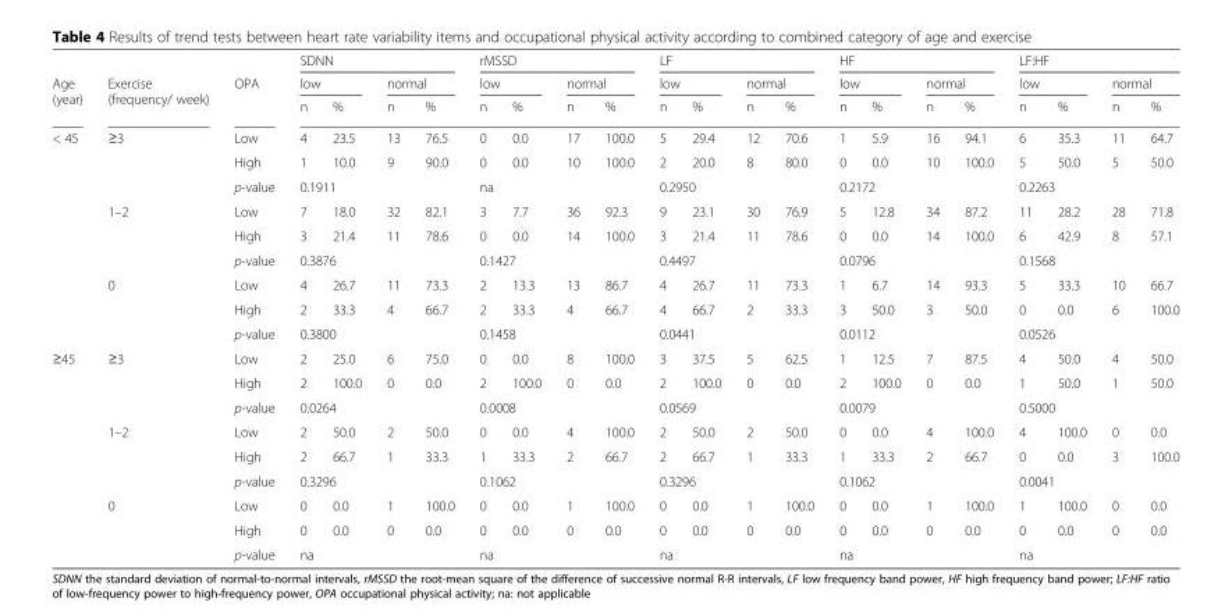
<table><thead><tr><td rowspan="3">Age (year)</td><td rowspan="3">Exercise (frequency/ week)</td><td rowspan="3">OPA</td><td colspan="4">SDNN</td><td colspan="4">rMSSD</td><td colspan="4">LF</td><td colspan="4">HF</td><td colspan="4">LF:HF</td></tr><tr><td colspan="2">low</td><td colspan="2">normal</td><td colspan="2">low</td><td colspan="2">normal</td><td colspan="2">low</td><td colspan="2">normal</td><td colspan="2">low</td><td colspan="2">normal</td><td colspan="2">low</td><td colspan="2">normal</td></tr><tr><td>n</td><td>%</td><td>n</td><td>%</td><td>n</td><td>%</td><td>n</td><td>%</td><td>n</td><td>%</td><td>n</td><td>%</td><td>n</td><td>%</td><td>n</td><td>%</td><td>n</td><td>%</td><td>n</td><td>%</td></tr></thead><tbody><tr><td rowspan="9">&lt; 45</td><td>≥3</td><td>Low</td><td>4</td><td>23.5</td><td>13</td><td>76.5</td><td>0</td><td>0.0</td><td>17</td><td>100.0</td><td>5</td><td>29.4</td><td>12</td><td>70.6</td><td>1</td><td>5.9</td><td>16</td><td>94.1</td><td>6</td><td>35.3</td><td>11</td><td>64.7</td></tr><tr><td></td><td>High</td><td>1</td><td>10.0</td><td>9</td><td>90.0</td><td>0</td><td>0.0</td><td>10</td><td>100.0</td><td>2</td><td>20.0</td><td>8</td><td>80.0</td><td>0</td><td>0.0</td><td>10</td><td>100.0</td><td>5</td><td>50.0</td><td>5</td><td>50.0</td></tr><tr><td></td><td>p-value</td><td colspan="4">0.1911</td><td colspan="4">na</td><td colspan="4">0.2950</td><td colspan="4">0.2172</td><td colspan="4">0.2263</td></tr><tr><td>1–2</td><td>Low</td><td>7</td><td>18.0</td><td>32</td><td>82.1</td><td>3</td><td>7.7</td><td>36</td><td>92.3</td><td>9</td><td>23.1</td><td>30</td><td>76.9</td><td>5</td><td>12.8</td><td>34</td><td>87.2</td><td>11</td><td>28.2</td><td>28</td><td>71.8</td></tr><tr><td></td><td>High</td><td>3</td><td>21.4</td><td>11</td><td>78.6</td><td>0</td><td>0.0</td><td>14</td><td>100.0</td><td>3</td><td>21.4</td><td>11</td><td>78.6</td><td>0</td><td>0.0</td><td>14</td><td>100.0</td><td>6</td><td>42.9</td><td>8</td><td>57.1</td></tr><tr><td></td><td>p-value</td><td colspan="4">0.3876</td><td colspan="4">0.1427</td><td colspan="4">0.4497</td><td colspan="4">0.0796</td><td colspan="4">0.1568</td></tr><tr><td>0</td><td>Low</td><td>4</td><td>26.7</td><td>11</td><td>73.3</td><td>2</td><td>13.3</td><td>13</td><td>86.7</td><td>4</td><td>26.7</td><td>11</td><td>73.3</td><td>1</td><td>6.7</td><td>14</td><td>93.3</td><td>5</td><td>33.3</td><td>10</td><td>66.7</td></tr><tr><td></td><td>High</td><td>2</td><td>33.3</td><td>4</td><td>66.7</td><td>2</td><td>33.3</td><td>4</td><td>66.7</td><td>4</td><td>66.7</td><td>2</td><td>33.3</td><td>3</td><td>50.0</td><td>3</td><td>50.0</td><td>0</td><td>0.0</td><td>6</td><td>100.0</td></tr><tr><td></td><td>p-value</td><td colspan="4">0.3800</td><td colspan="4">0.1458</td><td colspan="4">0.0441</td><td colspan="4">0.0112</td><td colspan="4">0.0526</td></tr><tr><td rowspan="9">≥45</td><td>≥3</td><td>Low</td><td>2</td><td>25.0</td><td>6</td><td>75.0</td><td>0</td><td>0.0</td><td>8</td><td>100.0</td><td>3</td><td>37.5</td><td>5</td><td>62.5</td><td>1</td><td>12.5</td><td>7</td><td>87.5</td><td>4</td><td>50.0</td><td>4</td><td>50.0</td></tr><tr><td></td><td>High</td><td>2</td><td>100.0</td><td>0</td><td>0.0</td><td>2</td><td>100.0</td><td>0</td><td>0.0</td><td>2</td><td>100.0</td><td>0</td><td>0.0</td><td>2</td><td>100.0</td><td>0</td><td>0.0</td><td>1</td><td>50.0</td><td>1</td><td>50.0</td></tr><tr><td></td><td>p-value</td><td colspan="4">0.0264</td><td colspan="4">0.0008</td><td colspan="4">0.0569</td><td colspan="4">0.0079</td><td colspan="4">0.5000</td></tr><tr><td>1–2</td><td>Low</td><td>2</td><td>50.0</td><td>2</td><td>50.0</td><td>0</td><td>0.0</td><td>4</td><td>100.0</td><td>2</td><td>50.0</td><td>2</td><td>50.0</td><td>0</td><td>0.0</td><td>4</td><td>100.0</td><td>4</td><td>100.0</td><td>0</td><td>0.0</td></tr><tr><td></td><td>High</td><td>2</td><td>66.7</td><td>1</td><td>33.3</td><td>1</td><td>33.3</td><td>2</td><td>66.7</td><td>2</td><td>66.7</td><td>1</td><td>33.3</td><td>1</td><td>33.3</td><td>2</td><td>66.7</td><td>0</td><td>0.0</td><td>3</td><td>100.0</td></tr><tr><td></td><td>p-value</td><td colspan="4">0.3296</td><td colspan="4">0.1062</td><td colspan="4">0.3296</td><td colspan="4">0.1062</td><td colspan="4">0.0041</td></tr><tr><td>0</td><td>Low</td><td>0</td><td>0.0</td><td>1</td><td>100.0</td><td>0</td><td>0.0</td><td>1</td><td>100.0</td><td>0</td><td>0.0</td><td>1</td><td>100.0</td><td>0</td><td>0.0</td><td>1</td><td>100.0</td><td>1</td><td>100.0</td><td>0</td><td>0.0</td></tr><tr><td></td><td>High</td><td>0</td><td>0.0</td><td>0</td><td>0.0</td><td>0</td><td>0.0</td><td>0</td><td>0.0</td><td>0</td><td>0.0</td><td>0</td><td>0.0</td><td>0</td><td>0.0</td><td>0</td><td>0.0</td><td>0</td><td>0.0</td><td>0</td><td>0.0</td></tr><tr><td></td><td>p-value</td><td colspan="4">na</td><td colspan="4">na</td><td colspan="4">na</td><td colspan="4">na</td><td colspan="4">na</td></tr></tbody></table>